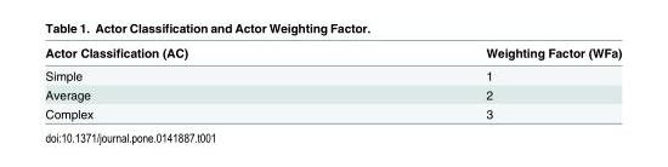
<table><thead><tr><td>Actor Classification (AC)</td><td>Weighting Factor (WFa)</td></tr></thead><tbody><tr><td>Simple</td><td>1</td></tr><tr><td>Average</td><td>2</td></tr><tr><td>Complex</td><td>3</td></tr></tbody></table>